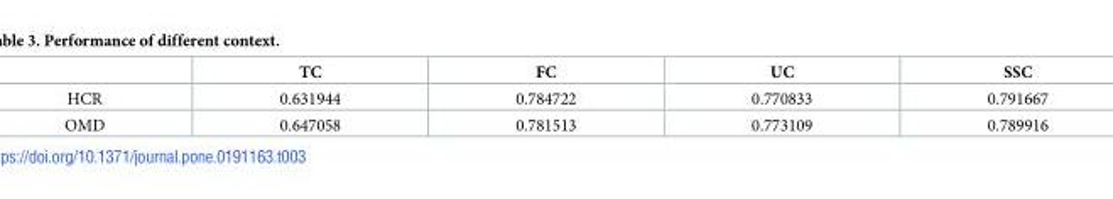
<table><thead><tr><td></td><td>TC</td><td>FC</td><td>UC</td><td>SSC</td></tr></thead><tbody><tr><td>HCR</td><td>0.631944</td><td>0.784722</td><td>0.770833</td><td>0.791667</td></tr><tr><td>OMD</td><td>0.647058</td><td>0.781513</td><td>0.773109</td><td>0.789916</td></tr></tbody></table>